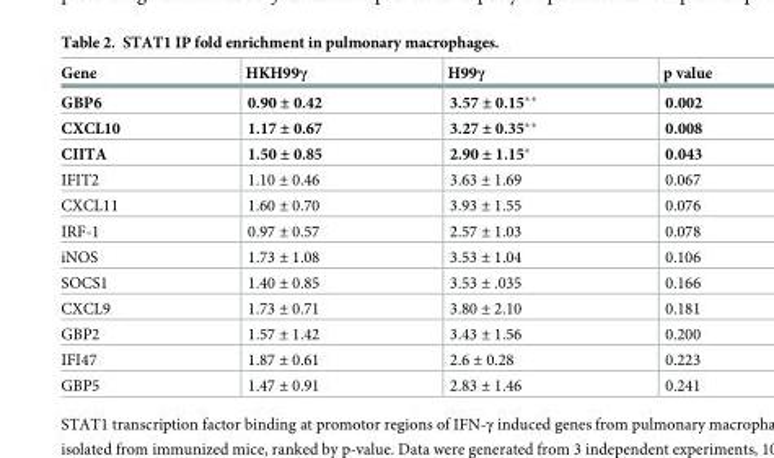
<table><thead><tr><td>Gene</td><td>HKH99γ</td><td>H99γ</td><td>p value</td></tr></thead><tbody><tr><td>GBP6</td><td>0.90 ± 0.42</td><td>3.57 ± 0.15**</td><td>0.002</td></tr><tr><td>CXCL10</td><td>1.17 ± 0.67</td><td>3.27 ± 0.35**</td><td>0.008</td></tr><tr><td>CIITA</td><td>1.50 ± 0.85</td><td>2.90 ± 1.15*</td><td>0.043</td></tr><tr><td>IFIT2</td><td>1.10 ± 0.46</td><td>3.63 ± 1.69</td><td>0.067</td></tr><tr><td>CXCL11</td><td>1.60 ± 0.70</td><td>3.93 ± 1.55</td><td>0.076</td></tr><tr><td>IRF-1</td><td>0.97 ± 0.57</td><td>2.57 ± 1.03</td><td>0.078</td></tr><tr><td>iNOS</td><td>1.73 ± 1.08</td><td>3.53 ± 1.04</td><td>0.106</td></tr><tr><td>SOCS1</td><td>1.40 ± 0.85</td><td>3.53 ± .035</td><td>0.166</td></tr><tr><td>CXCL9</td><td>1.73 ± 0.71</td><td>3.80 ± 2.10</td><td>0.181</td></tr><tr><td>GBP2</td><td>1.57 ± 1.42</td><td>3.43 ± 1.56</td><td>0.200</td></tr><tr><td>IFI47</td><td>1.87 ± 0.61</td><td>2.6 ± 0.28</td><td>0.223</td></tr><tr><td>GBP5</td><td>1.47 ± 0.91</td><td>2.83 ± 1.46</td><td>0.241</td></tr></tbody></table>